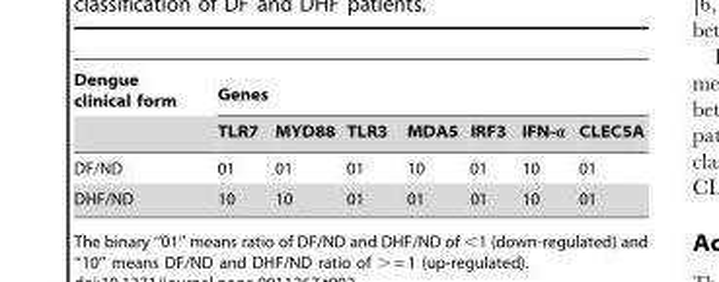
<table><thead><tr><td rowspan="2">Dengue clinical form</td><td colspan="7">Genes</td></tr><tr><td>TLR7</td><td>MYD88</td><td>TLR3</td><td>MDA5</td><td>IRF3</td><td>IFN-α</td><td>CLEC5A</td></tr></thead><tbody><tr><td>DF/ND</td><td>01</td><td>01</td><td>01</td><td>10</td><td>01</td><td>10</td><td>01</td></tr><tr><td>DHF/ND</td><td>10</td><td>10</td><td>01</td><td>01</td><td>01</td><td>10</td><td>01</td></tr></tbody></table>